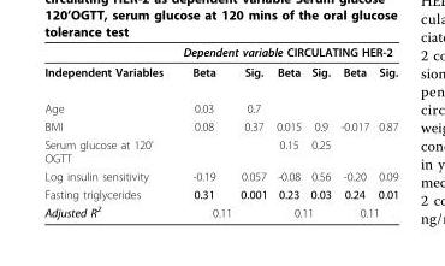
<table><thead><tr><td rowspan="2">Independent Variables</td><td colspan="6">Dependent variable CIRCULATING HER-2</td></tr><tr><td>Beta</td><td>Sig.</td><td>Beta</td><td>Sig.</td><td>Beta</td><td>Sig.</td></tr></thead><tbody><tr><td>Age</td><td>0.03</td><td>0.7</td><td></td><td></td><td></td><td></td></tr><tr><td>BMI</td><td>0.08</td><td>0.37</td><td>0.015</td><td>0.9</td><td>-0.017</td><td>0.87</td></tr><tr><td>Serum glucose at 120’ OGTT</td><td></td><td></td><td>0.15</td><td>0.25</td><td></td><td></td></tr><tr><td>Log insulin sensitivity</td><td>-0.19</td><td>0.057</td><td>-0.08</td><td>0.56</td><td>-0.20</td><td>0.09</td></tr><tr><td>Fasting triglycerides</td><td>0.31</td><td>0.001</td><td>0.23</td><td>0.03</td><td>0.24</td><td>0.01</td></tr><tr><td>Adjusted R<sup>2</sup></td><td colspan="2">0.11</td><td colspan="2">0.11</td><td colspan="2">0.11</td></tr></tbody></table>